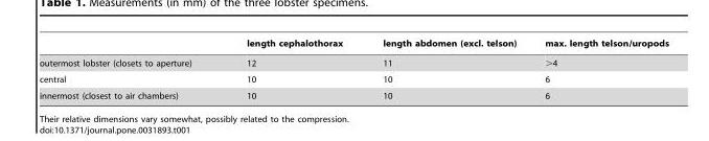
<table><thead><tr><td></td><td>length cephalothorax</td><td>length abdomen (excl. telson)</td><td>max. length telson/uropods</td></tr></thead><tbody><tr><td>outermost lobster (closets to aperture)</td><td>12</td><td>11</td><td>&gt;4</td></tr><tr><td>central</td><td>10</td><td>10</td><td>6</td></tr><tr><td>innermost (closest to air chambers)</td><td>10</td><td>10</td><td>6</td></tr></tbody></table>